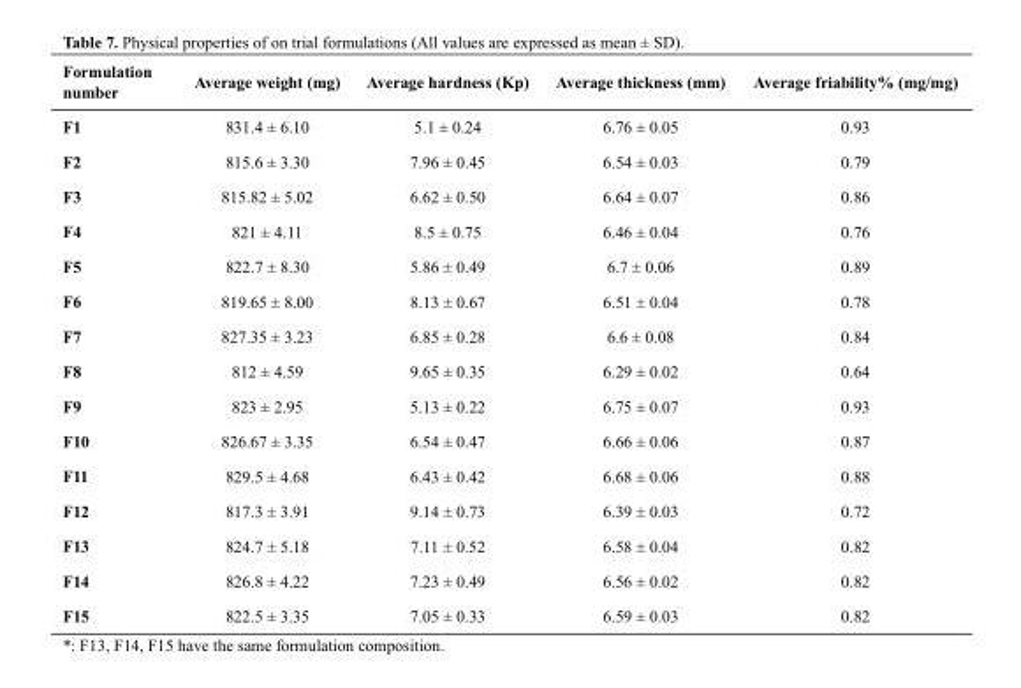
<table><thead><tr><td>Formulation number</td><td>Average weight (mg)</td><td>Average hardness (Kp)</td><td>Average thickness (mm)</td><td>Average friability% (mg/mg)</td></tr></thead><tbody><tr><td>F1</td><td>831.4 ± 6.10</td><td>5.1 ± 0.24</td><td>6.76 ± 0.05</td><td>0.93</td></tr><tr><td>F2</td><td>815.6 ± 3.30</td><td>7.96 ± 0.45</td><td>6.54 ± 0.03</td><td>0.79</td></tr><tr><td>F3</td><td>815.82 ± 5.02</td><td>6.62 ± 0.50</td><td>6.64 ± 0.07</td><td>0.86</td></tr><tr><td>F4</td><td>821 ± 4.11</td><td>8.5 ± 0.75</td><td>6.46 ± 0.04</td><td>0.76</td></tr><tr><td>F5</td><td>822.7 ± 8.30</td><td>5.86 ± 0.49</td><td>6.7 ± 0.06</td><td>0.89</td></tr><tr><td>F6</td><td>819.65 ± 8.00</td><td>8.13 ± 0.67</td><td>6.51 ± 0.04</td><td>0.78</td></tr><tr><td>F7</td><td>827.35 ± 3.23</td><td>6.85 ± 0.28</td><td>6.6 ± 0.08</td><td>0.84</td></tr><tr><td>F8</td><td>812 ± 4.59</td><td>9.65 ± 0.35</td><td>6.29 ± 0.02</td><td>0.64</td></tr><tr><td>F9</td><td>823 ± 2.95</td><td>5.13 ± 0.22</td><td>6.75 ± 0.07</td><td>0.93</td></tr><tr><td>F10</td><td>826.67 ± 3.35</td><td>6.54 ± 0.47</td><td>6.66 ± 0.06</td><td>0.87</td></tr><tr><td>F11</td><td>829.5 ± 4.68</td><td>6.43 ± 0.42</td><td>6.68 ± 0.06</td><td>0.88</td></tr><tr><td>F12</td><td>817.3 ± 3.91</td><td>9.14 ± 0.73</td><td>6.39 ± 0.03</td><td>0.72</td></tr><tr><td>F13</td><td>824.7 ± 5.18</td><td>7.11 ± 0.52</td><td>6.58 ± 0.04</td><td>0.82</td></tr><tr><td>F14</td><td>826.8 ± 4.22</td><td>7.23 ± 0.49</td><td>6.56 ± 0.02</td><td>0.82</td></tr><tr><td>F15</td><td>822.5 ± 3.35</td><td>7.05 ± 0.33</td><td>6.59 ± 0.03</td><td>0.82</td></tr></tbody></table>